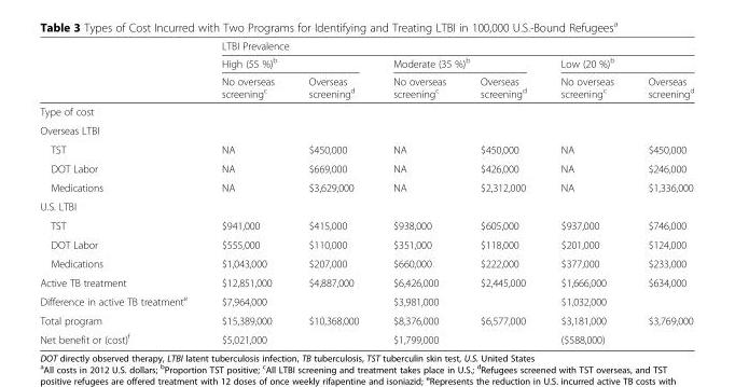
<table><thead><tr><td rowspan="3"></td><td colspan="6">LTBI Prevalence</td></tr><tr><td colspan="2">High (55 %)<sup>b</sup></td><td colspan="2">Moderate (35 %)<sup>b</sup></td><td colspan="2">Low (20 %)<sup>b</sup></td></tr><tr><td>No overseas screening<sup>c</sup></td><td>Overseas screening<sup>d</sup></td><td>No overseas screening<sup>c</sup></td><td>Overseas screening<sup>d</sup></td><td>No overseas screening<sup>c</sup></td><td>Overseas screening<sup>d</sup></td></tr></thead><tbody><tr><td colspan="7">Type of cost</td></tr><tr><td colspan="7">Overseas LTBI</td></tr><tr><td>TST</td><td>NA</td><td>$450,000</td><td>NA</td><td>$450,000</td><td>NA</td><td>$450,000</td></tr><tr><td>DOT Labor</td><td>NA</td><td>$669,000</td><td>NA</td><td>$426,000</td><td>NA</td><td>$246,000</td></tr><tr><td>Medications</td><td>NA</td><td>$3,629,000</td><td>NA</td><td>$2,312,000</td><td>NA</td><td>$1,336,000</td></tr><tr><td colspan="7">U.S. LTBI</td></tr><tr><td>TST</td><td>$941,000</td><td>$415,000</td><td>$938,000</td><td>$605,000</td><td>$937,000</td><td>$746,000</td></tr><tr><td>DOT Labor</td><td>$555,000</td><td>$110,000</td><td>$351,000</td><td>$118,000</td><td>$201,000</td><td>$124,000</td></tr><tr><td>Medications</td><td>$1,043,000</td><td>$207,000</td><td>$660,000</td><td>$222,000</td><td>$377,000</td><td>$233,000</td></tr><tr><td>Active TB treatment</td><td>$12,851,000</td><td>$4,887,000</td><td>$6,426,000</td><td>$2,445,000</td><td>$1,666,000</td><td>$634,000</td></tr><tr><td>Difference in active TB treatment<sup>e</sup></td><td colspan="2">$7,964,000</td><td colspan="2">$3,981,000</td><td colspan="2">$1,032,000</td></tr><tr><td>Total program</td><td>$15,389,000</td><td>$10,368,000</td><td>$8,376,000</td><td>$6,577,000</td><td>$3,181,000</td><td>$3,769,000</td></tr><tr><td>Net benefit or (cost)<sup>f</sup></td><td colspan="2">$5,021,000</td><td colspan="2">$1,799,000</td><td colspan="2">($588,000)</td></tr></tbody></table>